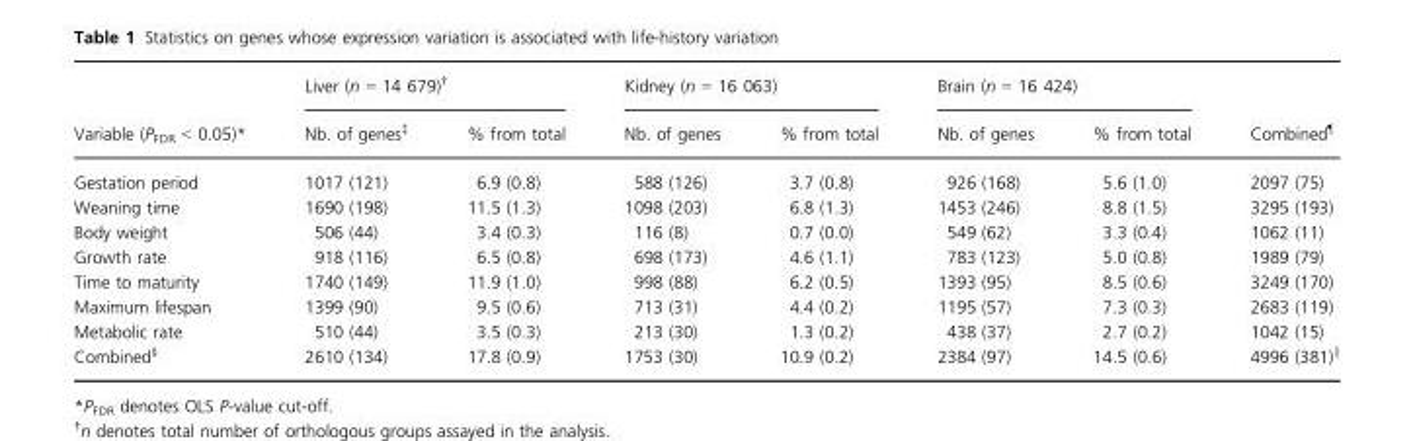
<table><thead><tr><td rowspan="2">Variable (P<sub>FDR</sub> &lt; 0.05)*</td><td colspan="2">Liver (n = 14 679)†</td><td colspan="2">Kidney (n = 16 063)</td><td colspan="2">Brain (n = 16 424)</td><td rowspan="2">Combined¶</td></tr><tr><td>Nb. of genes‡</td><td>% from total</td><td>Nb. of genes</td><td>% from total</td><td>Nb. of genes</td><td>% from total</td></tr></thead><tbody><tr><td>Gestation period</td><td>1017 (121)</td><td>6.9 (0.8)</td><td>588 (126)</td><td>3.7 (0.8)</td><td>926 (168)</td><td>5.6 (1.0)</td><td>2097 (75)</td></tr><tr><td>Weaning time</td><td>1690 (198)</td><td>11.5 (1.3)</td><td>1098 (203)</td><td>6.8 (1.3)</td><td>1453 (246)</td><td>8.8 (1.5)</td><td>3295 (193)</td></tr><tr><td>Body weight</td><td>506 (44)</td><td>3.4 (0.3)</td><td>116 (8)</td><td>0.7 (0.0)</td><td>549 (62)</td><td>3.3 (0.4)</td><td>1062 (11)</td></tr><tr><td>Growth rate</td><td>918 (116)</td><td>6.5 (0.8)</td><td>698 (173)</td><td>4.6 (1.1)</td><td>783 (123)</td><td>5.0 (0.8)</td><td>1989 (79)</td></tr><tr><td>Time to maturity</td><td>1740 (149)</td><td>11.9 (1.0)</td><td>998 (88)</td><td>6.2 (0.5)</td><td>1393 (95)</td><td>8.5 (0.6)</td><td>3249 (170)</td></tr><tr><td>Maximum lifespan</td><td>1399 (90)</td><td>9.5 (0.6)</td><td>713 (31)</td><td>4.4 (0.2)</td><td>1195 (57)</td><td>7.3 (0.3)</td><td>2683 (119)</td></tr><tr><td>Metabolic rate</td><td>510 (44)</td><td>3.5 (0.3)</td><td>213 (30)</td><td>1.3 (0.2)</td><td>438 (37)</td><td>2.7 (0.2)</td><td>1042 (15)</td></tr><tr><td>Combined§</td><td>2610 (134)</td><td>17.8 (0.9)</td><td>1753 (30)</td><td>10.9 (0.2)</td><td>2384 (97)</td><td>14.5 (0.6)</td><td>4996 (381)∥</td></tr></tbody></table>